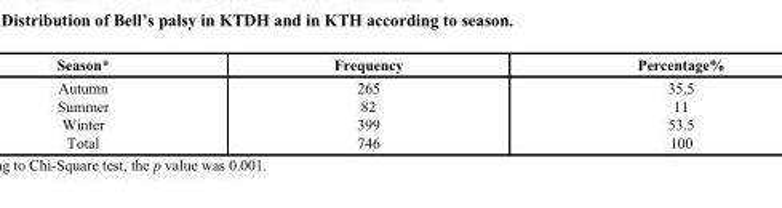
<table><thead><tr><td>Season*</td><td>Frequency</td><td>Percentage%</td></tr></thead><tbody><tr><td>Autumn Summer Winter Total</td><td>265 82 399 746</td><td>35.5 11 53.5 100</td></tr></tbody></table>